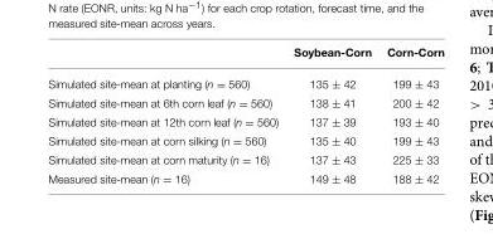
<table><thead><tr><td></td><td>Soybean-Corn</td><td>Corn-Corn</td></tr></thead><tbody><tr><td>Simulated site-mean at planting (n = 560)</td><td>135 ± 42</td><td>199 ± 43</td></tr><tr><td>Simulated site-mean at 6th corn leaf (n = 560)</td><td>138 ± 41</td><td>200 ± 42</td></tr><tr><td>Simulated site-mean at 12th corn leaf (n = 560)</td><td>137 ± 39</td><td>193 ± 40</td></tr><tr><td>Simulated site-mean at corn silking (n = 560)</td><td>135 ± 40</td><td>199 ± 43</td></tr><tr><td>Simulated site-mean at corn maturity (n = 16)</td><td>137 ± 43</td><td>225 ± 33</td></tr><tr><td>Measured site-mean (n = 16)</td><td>149 ± 48</td><td>188 ± 42</td></tr></tbody></table>